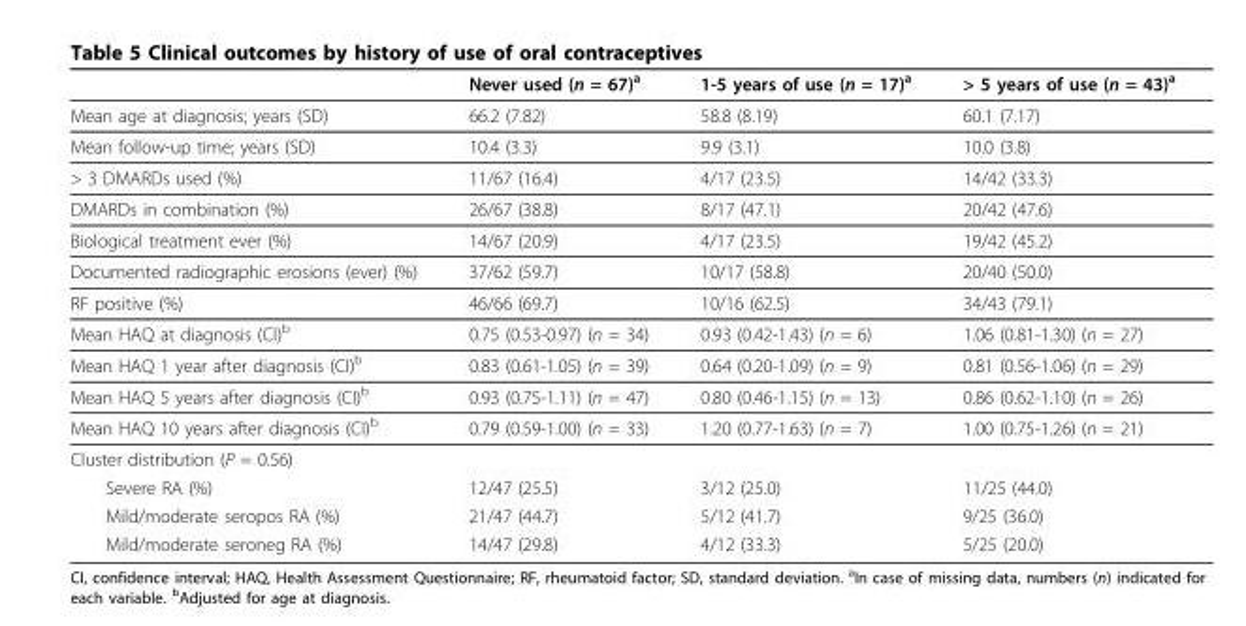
<table><thead><tr><td></td><td>Never used (n = 67)<sup>a</sup></td><td>1-5 years of use (n = 17)<sup>a</sup></td><td>&gt; 5 years of use (n = 43)<sup>a</sup></td></tr></thead><tbody><tr><td>Mean age at diagnosis; years (SD)</td><td>66.2 (7.82)</td><td>58.8 (8.19)</td><td>60.1 (7.17)</td></tr><tr><td>Mean follow-up time; years (SD)</td><td>10.4 (3.3)</td><td>9.9 (3.1)</td><td>10.0 (3.8)</td></tr><tr><td>&gt; 3 DMARDs used (%)</td><td>11/67 (16.4)</td><td>4/17 (23.5)</td><td>14/42 (33.3)</td></tr><tr><td>DMARDs in combination (%)</td><td>26/67 (38.8)</td><td>8/17 (47.1)</td><td>20/42 (47.6)</td></tr><tr><td>Biological treatment ever (%)</td><td>14/67 (20.9)</td><td>4/17 (23.5)</td><td>19/42 (45.2)</td></tr><tr><td>Documented radiographic erosions (ever) (%)</td><td>37/62 (59.7)</td><td>10/17 (58.8)</td><td>20/40 (50.0)</td></tr><tr><td>RF positive (%)</td><td>46/66 (69.7)</td><td>10/16 (62.5)</td><td>34/43 (79.1)</td></tr><tr><td>Mean HAQ at diagnosis (CI)<sup>b</sup></td><td>0.75 (0.53-0.97) (n = 34)</td><td>0.93 (0.42-1.43) (n = 6)</td><td>1.06 (0.81-1.30) (n = 27)</td></tr><tr><td>Mean HAQ 1 year after diagnosis (CI)<sup>b</sup></td><td>0.83 (0.61-1.05) (n = 39)</td><td>0.64 (0.20-1.09) (n = 9)</td><td>0.81 (0.56-1.06) (n = 29)</td></tr><tr><td>Mean HAQ 5 years after diagnosis (CI)<sup>b</sup></td><td>0.93 (0.75-1.11) (n = 47)</td><td>0.80 (0.46-1.15) (n = 13)</td><td>0.86 (0.62-1.10) (n = 26)</td></tr><tr><td>Mean HAQ 10 years after diagnosis (CI)<sup>b</sup></td><td>0.79 (0.59-1.00) (n = 33)</td><td>1.20 (0.77-1.63) (n = 7)</td><td>1.00 (0.75-1.26) (n = 21)</td></tr><tr><td colspan="4">Cluster distribution (P = 0.56)</td></tr><tr><td>Severe RA (%)</td><td>12/47 (25.5)</td><td>3/12 (25.0)</td><td>11/25 (44.0)</td></tr><tr><td>Mild/moderate seropos RA (%)</td><td>21/47 (44.7)</td><td>5/12 (41.7)</td><td>9/25 (36.0)</td></tr><tr><td>Mild/moderate seroneg RA (%)</td><td>14/47 (29.8)</td><td>4/12 (33.3)</td><td>5/25 (20.0)</td></tr></tbody></table>